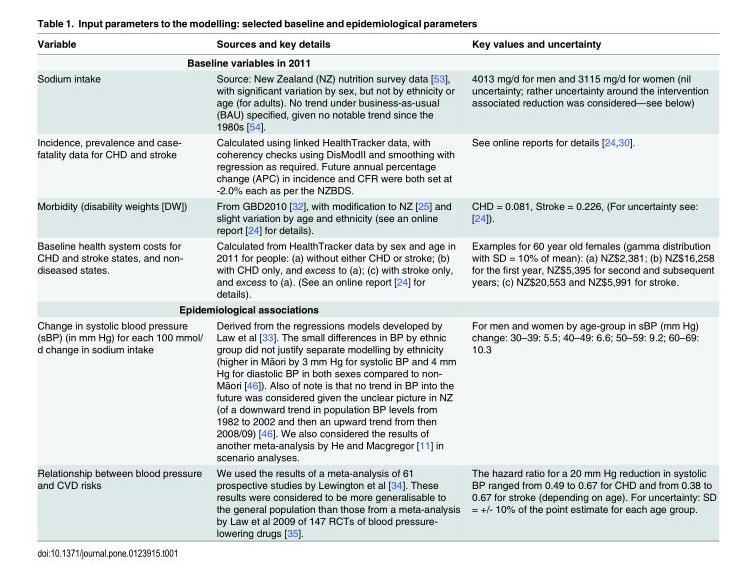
<table><thead><tr><td>Variable</td><td>Sources and key details</td><td>Key values and uncertainty</td></tr></thead><tbody><tr><td colspan="3">Baseline variables in 2011</td></tr><tr><td>Sodium intake</td><td>Source: New Zealand (NZ) nutrition survey data [53], with significant variation by sex, but not by ethnicity or age (for adults). No trend under business-as-usual (BAU) specified, given no notable trend since the 1980s [54].</td><td>4013 mg/d for men and 3115 mg/d for women (nil uncertainty; rather uncertainty around the intervention associated reduction was considered—see below)</td></tr><tr><td>Incidence, prevalence and case- fatality data for CHD and stroke</td><td>Calculated using linked HealthTracker data, with coherency checks using DisModII and smoothing with regression as required. Future annual percentage change (APC) in incidence and CFR were both set at -2.0% each as per the NZBDS.</td><td>See online reports for details [24,30].</td></tr><tr><td>Morbidity (disability weights [DW])</td><td>From GBD2010 [32], with modification to NZ [25] and slight variation by age and ethnicity (see an online report [24] for details).</td><td>CHD = 0.081, Stroke = 0.226, (For uncertainty see: [24]).</td></tr><tr><td>Baseline health system costs for CHD and stroke states, and non- diseased states.</td><td>Calculated from HealthTracker data by sex and age in 2011 for people: (a) without either CHD or stroke; (b) with CHD only, and excess to (a); (c) with stroke only, and excess to (a). (See an online report [24] for details).</td><td>Examples for 60 year old females (gamma distribution with SD = 10% of mean): (a) NZ$2,381; (b) NZ$16,258 for the first year, NZ$5,395 for second and subsequent years; (c) NZ$20,553 and NZ$5,991 for stroke.</td></tr><tr><td colspan="3">Epidemiological associations</td></tr><tr><td>Change in systolic blood pressure (sBP) (in mm Hg) for each 100 mmol/ d change in sodium intake</td><td>Derived from the regressions models developed by Law et al [33]. The small differences in BP by ethnic group did not justify separate modelling by ethnicity (higher in Māori by 3 mm Hg for systolic BP and 4 mm Hg for diastolic BP in both sexes compared to non- Māori [46]). Also of note is that no trend in BP into the future was considered given the unclear picture in NZ (of a downward trend in population BP levels from 1982 to 2002 and then an upward trend from then 2008/09) [46]. We also considered the results of another meta-analysis by He and Macgregor [11] in scenario analyses.</td><td>For men and women by age-group in sBP (mm Hg) change: 30–39: 5.5; 40–49: 6.6; 50–59: 9.2; 60–69: 10.3</td></tr><tr><td>Relationship between blood pressure and CVD risks</td><td>We used the results of a meta-analysis of 61 prospective studies by Lewington et al [34]. These results were considered to be more generalisable to the general population than those from a meta-analysis by Law et al 2009 of 147 RCTs of blood pressure- lowering drugs [35].</td><td>The hazard ratio for a 20 mm Hg reduction in systolic BP ranged from 0.49 to 0.67 for CHD and from 0.38 to 0.67 for stroke (depending on age). For uncertainty: SD = +/- 10% of the point estimate for each age group.</td></tr></tbody></table>